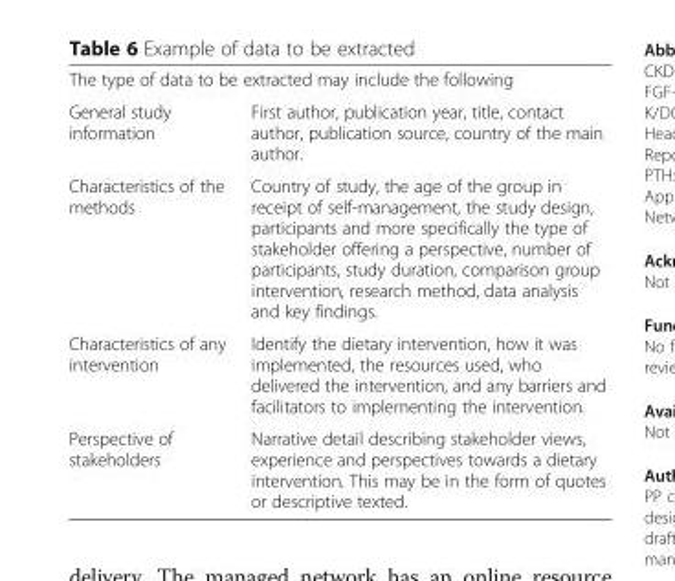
<table><tbody><tr><td colspan="2">The type of data to be extracted may include the following</td></tr><tr><td>General study information</td><td>First author, publication year, title, contact author, publication source, country of the main author.</td></tr><tr><td>Characteristics of the methods</td><td>Country of study, the age of the group in receipt of self-management, the study design, participants and more specifically the type of stakeholder offering a perspective, number of participants, study duration, comparison group intervention, research method, data analysis and key findings.</td></tr><tr><td>Characteristics of any intervention</td><td>Identify the dietary intervention, how it was implemented, the resources used, who delivered the intervention, and any barriers and facilitators to implementing the intervention.</td></tr><tr><td>Perspective of stakeholders</td><td>Narrative detail describing stakeholder views, experience and perspectives towards a dietary intervention. This may be in the form of quotes or descriptive texted.</td></tr></tbody></table>